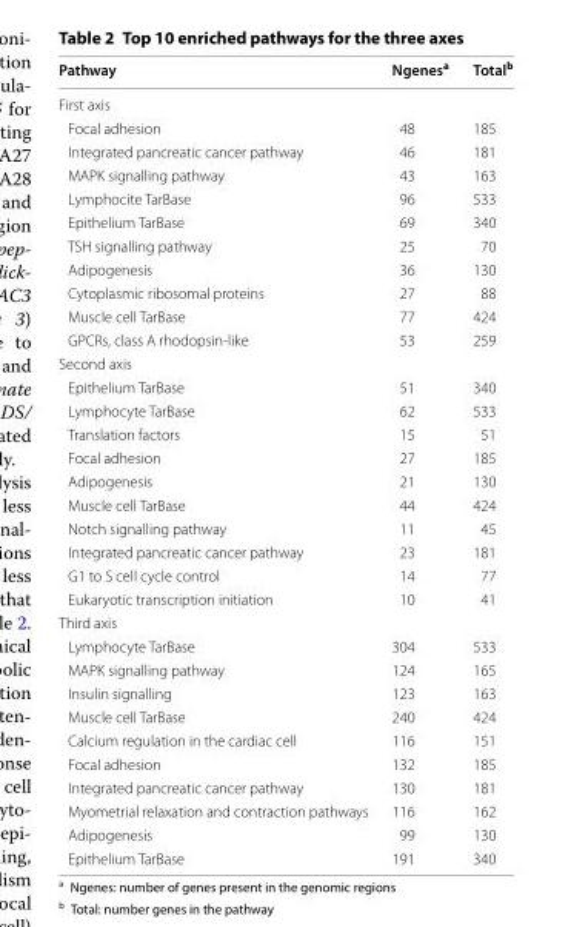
<table><thead><tr><td>Pathway</td><td>Ngenes<sup>a</sup></td><td>Total<sup>b</sup></td></tr></thead><tbody><tr><td colspan="3">First axis</td></tr><tr><td>Focal adhesion</td><td>48</td><td>185</td></tr><tr><td>Integrated pancreatic cancer pathway</td><td>46</td><td>181</td></tr><tr><td>MAPK signalling pathway</td><td>43</td><td>163</td></tr><tr><td>Lymphocite TarBase</td><td>96</td><td>533</td></tr><tr><td>Epithelium TarBase</td><td>69</td><td>340</td></tr><tr><td>TSH signalling pathway</td><td>25</td><td>70</td></tr><tr><td>Adipogenesis</td><td>36</td><td>130</td></tr><tr><td>Cytoplasmic ribosomal proteins</td><td>27</td><td>88</td></tr><tr><td>Muscle cell TarBase</td><td>77</td><td>424</td></tr><tr><td>GPCRs, class A rhodopsin‑like</td><td>53</td><td>259</td></tr><tr><td colspan="3">Second axis</td></tr><tr><td>Epithelium TarBase</td><td>51</td><td>340</td></tr><tr><td>Lymphocyte TarBase</td><td>62</td><td>533</td></tr><tr><td>Translation factors</td><td>15</td><td>51</td></tr><tr><td>Focal adhesion</td><td>27</td><td>185</td></tr><tr><td>Adipogenesis</td><td>21</td><td>130</td></tr><tr><td>Muscle cell TarBase</td><td>44</td><td>424</td></tr><tr><td>Notch signalling pathway</td><td>11</td><td>45</td></tr><tr><td>Integrated pancreatic cancer pathway</td><td>23</td><td>181</td></tr><tr><td>G1 to S cell cycle control</td><td>14</td><td>77</td></tr><tr><td>Eukaryotic transcription initiation</td><td>10</td><td>41</td></tr><tr><td colspan="3">Third axis</td></tr><tr><td>Lymphocyte TarBase</td><td>304</td><td>533</td></tr><tr><td>MAPK signalling pathway</td><td>124</td><td>165</td></tr><tr><td>Insulin signalling</td><td>123</td><td>163</td></tr><tr><td>Muscle cell TarBase</td><td>240</td><td>424</td></tr><tr><td>Calcium regulation in the cardiac cell</td><td>116</td><td>151</td></tr><tr><td>Focal adhesion</td><td>132</td><td>185</td></tr><tr><td>Integrated pancreatic cancer pathway</td><td>130</td><td>181</td></tr><tr><td>Myometrial relaxation and contraction pathways</td><td>116</td><td>162</td></tr><tr><td>Adipogenesis</td><td>99</td><td>130</td></tr><tr><td>Epithelium TarBase</td><td>191</td><td>340</td></tr></tbody></table>